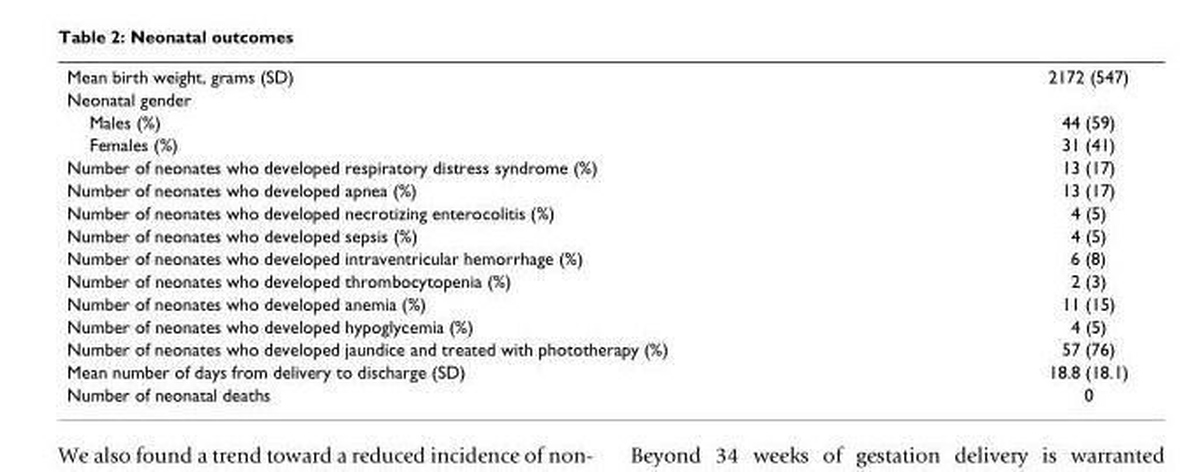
<table><tbody><tr><td>Mean birth weight, grams (SD)</td><td>2172 (547)</td></tr><tr><td colspan="2">Neonatal gender</td></tr><tr><td>Males (%)</td><td>44 (59)</td></tr><tr><td>Females (%)</td><td>31 (41)</td></tr><tr><td>Number of neonates who developed respiratory distress syndrome (%)</td><td>13 (17)</td></tr><tr><td>Number of neonates who developed apnea (%)</td><td>13 (17)</td></tr><tr><td>Number of neonates who developed necrotizing enterocolitis (%)</td><td>4 (5)</td></tr><tr><td>Number of neonates who developed sepsis (%)</td><td>4 (5)</td></tr><tr><td>Number of neonates who developed intraventricular hemorrhage (%)</td><td>6 (8)</td></tr><tr><td>Number of neonates who developed thrombocytopenia (%)</td><td>2 (3)</td></tr><tr><td>Number of neonates who developed anemia (%)</td><td>11 (15)</td></tr><tr><td>Number of neonates who developed hypoglycemia (%)</td><td>4 (5)</td></tr><tr><td>Number of neonates who developed jaundice and treated with phototherapy (%)</td><td>57 (76)</td></tr><tr><td>Mean number of days from delivery to discharge (SD)</td><td>18.8 (18.1)</td></tr><tr><td>Number of neonatal deaths</td><td>0</td></tr></tbody></table>